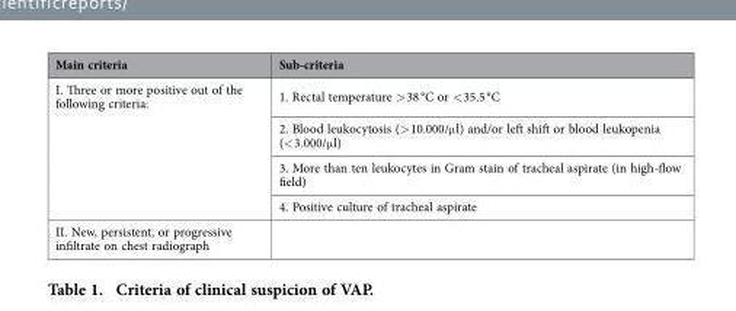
<table><tbody><tr><td>Main criteria</td><td>Sub-criteria</td></tr><tr><td rowspan="4">I. Three or more positive out of the following criteria:</td><td>1. Rectal temperature &gt; 38 °C or &lt; 35.5 °C</td></tr><tr><td>2. Blood leukocytosis (&gt; 10.000/μ l) and/or left shift or blood leukopenia (&lt; 3.000/μ l)</td></tr><tr><td>3. More than ten leukocytes in Gram stain of tracheal aspirate (in high-flow field)</td></tr><tr><td>4. Positive culture of tracheal aspirate</td></tr><tr><td>II. New, persistent, or progressive infiltrate on chest radiograph</td><td></td></tr></tbody></table>